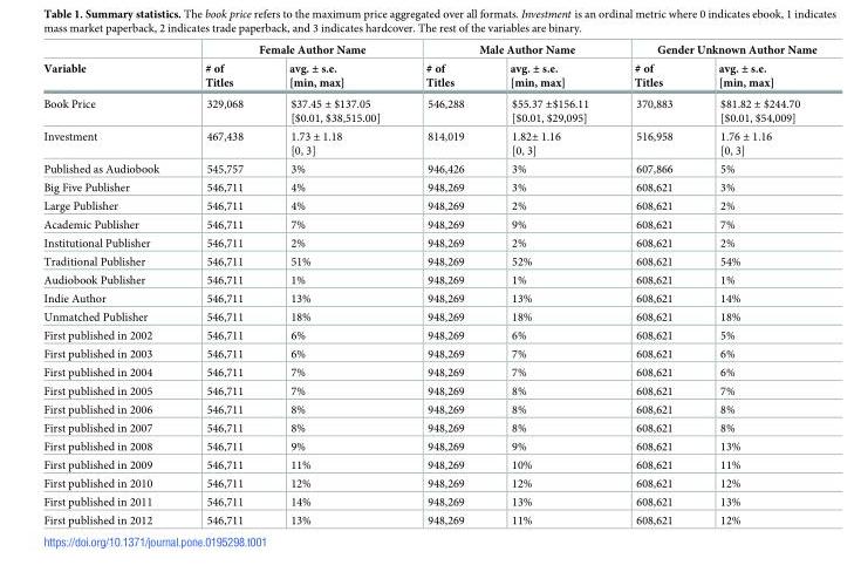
<table><thead><tr><td rowspan="2">Variable</td><td colspan="2">Female Author Name</td><td colspan="2">Male Author Name</td><td colspan="2">Gender Unknown Author Name</td></tr><tr><td># of Titles</td><td>avg. ± s.e. [min, max]</td><td># of Titles</td><td>avg. ± s.e. [min, max]</td><td># of Titles</td><td>avg. ± s.e. [min, max]</td></tr></thead><tbody><tr><td>Book Price</td><td>329,068</td><td>$37.45 ± $137.05 [$0.01, $38,515.00]</td><td>546,288</td><td>$55.37 ±$156.11 [$0.01, $29,095]</td><td>370,883</td><td>$81.82 ± $244.70 [$0.01, $54,009]</td></tr><tr><td>Investment</td><td>467,438</td><td>1.73 ± 1.18 [0, 3]</td><td>814,019</td><td>1.82± 1.16 [0, 3]</td><td>516,958</td><td>1.76 ± 1.16 [0, 3]</td></tr><tr><td>Published as Audiobook</td><td>545,757</td><td>3%</td><td>946,426</td><td>3%</td><td>607,866</td><td>5%</td></tr><tr><td>Big Five Publisher</td><td>546,711</td><td>4%</td><td>948,269</td><td>3%</td><td>608,621</td><td>3%</td></tr><tr><td>Large Publisher</td><td>546,711</td><td>4%</td><td>948,269</td><td>2%</td><td>608,621</td><td>2%</td></tr><tr><td>Academic Publisher</td><td>546,711</td><td>7%</td><td>948,269</td><td>9%</td><td>608,621</td><td>7%</td></tr><tr><td>Institutional Publisher</td><td>546,711</td><td>2%</td><td>948,269</td><td>2%</td><td>608,621</td><td>2%</td></tr><tr><td>Traditional Publisher</td><td>546,711</td><td>51%</td><td>948,269</td><td>52%</td><td>608,621</td><td>54%</td></tr><tr><td>Audiobook Publisher</td><td>546,711</td><td>1%</td><td>948,269</td><td>1%</td><td>608,621</td><td>1%</td></tr><tr><td>Indie Author</td><td>546,711</td><td>13%</td><td>948,269</td><td>13%</td><td>608,621</td><td>14%</td></tr><tr><td>Unmatched Publisher</td><td>546,711</td><td>18%</td><td>948,269</td><td>18%</td><td>608,621</td><td>18%</td></tr><tr><td>First published in 2002</td><td>546,711</td><td>6%</td><td>948,269</td><td>6%</td><td>608,621</td><td>5%</td></tr><tr><td>First published in 2003</td><td>546,711</td><td>6%</td><td>948,269</td><td>7%</td><td>608,621</td><td>6%</td></tr><tr><td>First published in 2004</td><td>546,711</td><td>7%</td><td>948,269</td><td>7%</td><td>608,621</td><td>6%</td></tr><tr><td>First published in 2005</td><td>546,711</td><td>7%</td><td>948,269</td><td>8%</td><td>608,621</td><td>7%</td></tr><tr><td>First published in 2006</td><td>546,711</td><td>8%</td><td>948,269</td><td>8%</td><td>608,621</td><td>8%</td></tr><tr><td>First published in 2007</td><td>546,711</td><td>8%</td><td>948,269</td><td>8%</td><td>608,621</td><td>8%</td></tr><tr><td>First published in 2008</td><td>546,711</td><td>9%</td><td>948,269</td><td>9%</td><td>608,621</td><td>13%</td></tr><tr><td>First published in 2009</td><td>546,711</td><td>11%</td><td>948,269</td><td>10%</td><td>608,621</td><td>11%</td></tr><tr><td>First published in 2010</td><td>546,711</td><td>12%</td><td>948,269</td><td>12%</td><td>608,621</td><td>12%</td></tr><tr><td>First published in 2011</td><td>546,711</td><td>14%</td><td>948,269</td><td>13%</td><td>608,621</td><td>13%</td></tr><tr><td>First published in 2012</td><td>546,711</td><td>13%</td><td>948,269</td><td>11%</td><td>608,621</td><td>12%</td></tr></tbody></table>